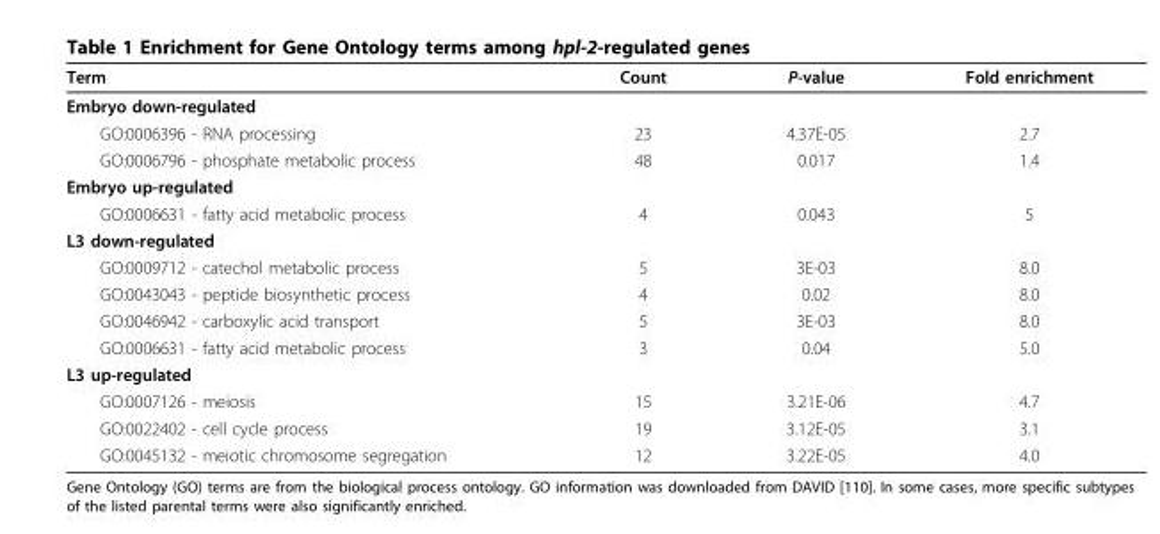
<table><thead><tr><td>Term</td><td>Count</td><td>P-value</td><td>Fold enrichment</td></tr></thead><tbody><tr><td colspan="4">Embryo down-regulated</td></tr><tr><td>GO:0006396 - RNA processing</td><td>23</td><td>4.37E-05</td><td>2.7</td></tr><tr><td>GO:0006796 - phosphate metabolic process</td><td>48</td><td>0.017</td><td>1.4</td></tr><tr><td colspan="4">Embryo up-regulated</td></tr><tr><td>GO:0006631 - fatty acid metabolic process</td><td>4</td><td>0.043</td><td>5</td></tr><tr><td colspan="4">L3 down-regulated</td></tr><tr><td>GO:0009712 - catechol metabolic process</td><td>5</td><td>3E-03</td><td>8.0</td></tr><tr><td>GO:0043043 - peptide biosynthetic process</td><td>4</td><td>0.02</td><td>8.0</td></tr><tr><td>GO:0046942 - carboxylic acid transport</td><td>5</td><td>3E-03</td><td>8.0</td></tr><tr><td>GO:0006631 - fatty acid metabolic process</td><td>3</td><td>0.04</td><td>5.0</td></tr><tr><td colspan="4">L3 up-regulated</td></tr><tr><td>GO:0007126 - meiosis</td><td>15</td><td>3.21E-06</td><td>4.7</td></tr><tr><td>GO:0022402 - cell cycle process</td><td>19</td><td>3.12E-05</td><td>3.1</td></tr><tr><td>GO:0045132 - meiotic chromosome segregation</td><td>12</td><td>3.22E-05</td><td>4.0</td></tr></tbody></table>